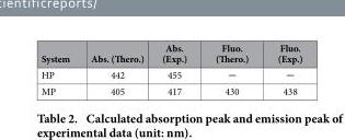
<table><thead><tr><td>System</td><td>Abs. (Thero.)</td><td>Abs. (Exp.)</td><td>Fluo. (Thero.)</td><td>Fluo. (Exp.)</td></tr></thead><tbody><tr><td>HP</td><td>442</td><td>455</td><td>─</td><td>─</td></tr><tr><td>MP</td><td>405</td><td>417</td><td>430</td><td>438</td></tr></tbody></table>